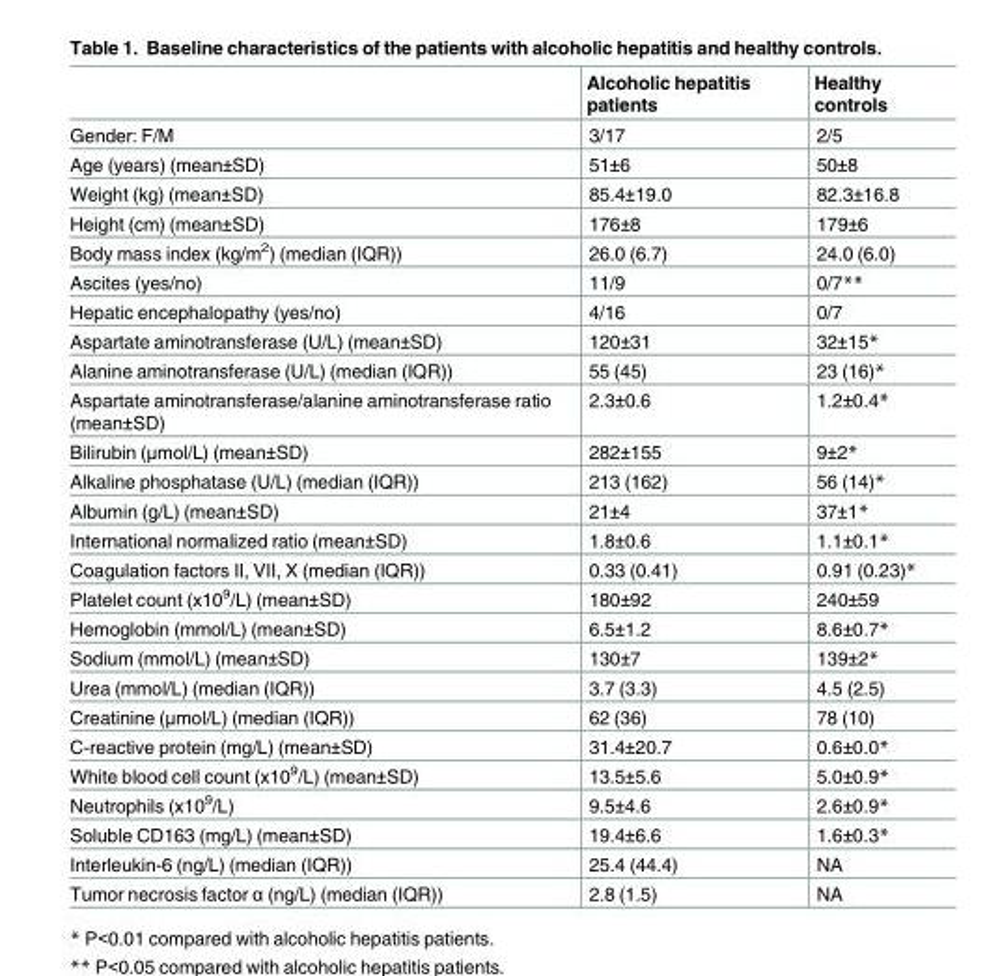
<table><thead><tr><td></td><td>Alcoholic hepatitis patients</td><td>Healthy controls</td></tr></thead><tbody><tr><td>Gender: F/M</td><td>3/17</td><td>2/5</td></tr><tr><td>Age (years) (mean±SD)</td><td>51±6</td><td>50±8</td></tr><tr><td>Weight (kg) (mean±SD)</td><td>85.4±19.0</td><td>82.3±16.8</td></tr><tr><td>Height (cm) (mean±SD)</td><td>176±8</td><td>179±6</td></tr><tr><td>Body mass index (kg/m<sup>2</sup>) (median (IQR))</td><td>26.0 (6.7)</td><td>24.0 (6.0)</td></tr><tr><td>Ascites (yes/no)</td><td>11/9</td><td>0/7**</td></tr><tr><td>Hepatic encephalopathy (yes/no)</td><td>4/16</td><td>0/7</td></tr><tr><td>Aspartate aminotransferase (U/L) (mean±SD)</td><td>120±31</td><td>32±15*</td></tr><tr><td>Alanine aminotransferase (U/L) (median (IQR))</td><td>55 (45)</td><td>23 (16)*</td></tr><tr><td>Aspartate aminotransferase/alanine aminotransferase ratio (mean±SD)</td><td>2.3±0.6</td><td>1.2±0.4*</td></tr><tr><td>Bilirubin (μmol/L) (mean±SD)</td><td>282±155</td><td>9±2*</td></tr><tr><td>Alkaline phosphatase (U/L) (median (IQR))</td><td>213 (162)</td><td>56 (14)*</td></tr><tr><td>Albumin (g/L) (mean±SD)</td><td>21±4</td><td>37±1*</td></tr><tr><td>International normalized ratio (mean±SD)</td><td>1.8±0.6</td><td>1.1±0.1*</td></tr><tr><td>Coagulation factors II, VII, X (median (IQR))</td><td>0.33 (0.41)</td><td>0.91 (0.23)*</td></tr><tr><td>Platelet count (x10<sup>9</sup>/L) (mean±SD)</td><td>180±92</td><td>240±59</td></tr><tr><td>Hemoglobin (mmol/L) (mean±SD)</td><td>6.5±1.2</td><td>8.6±0.7*</td></tr><tr><td>Sodium (mmol/L) (mean±SD)</td><td>130±7</td><td>139±2*</td></tr><tr><td>Urea (mmol/L) (median (IQR))</td><td>3.7 (3.3)</td><td>4.5 (2.5)</td></tr><tr><td>Creatinine (μmol/L) (median (IQR))</td><td>62 (36)</td><td>78 (10)</td></tr><tr><td>C-reactive protein (mg/L) (mean±SD)</td><td>31.4±20.7</td><td>0.6±0.0*</td></tr><tr><td>White blood cell count (x10<sup>9</sup>/L) (mean±SD)</td><td>13.5±5.6</td><td>5.0±0.9*</td></tr><tr><td>Neutrophils (x10<sup>9</sup>/L)</td><td>9.5±4.6</td><td>2.6±0.9*</td></tr><tr><td>Soluble CD163 (mg/L) (mean±SD)</td><td>19.4±6.6</td><td>1.6±0.3*</td></tr><tr><td>Interleukin-6 (ng/L) (median (IQR))</td><td>25.4 (44.4)</td><td>NA</td></tr><tr><td>Tumor necrosis factor α (ng/L) (median (IQR))</td><td>2.8 (1.5)</td><td>NA</td></tr></tbody></table>